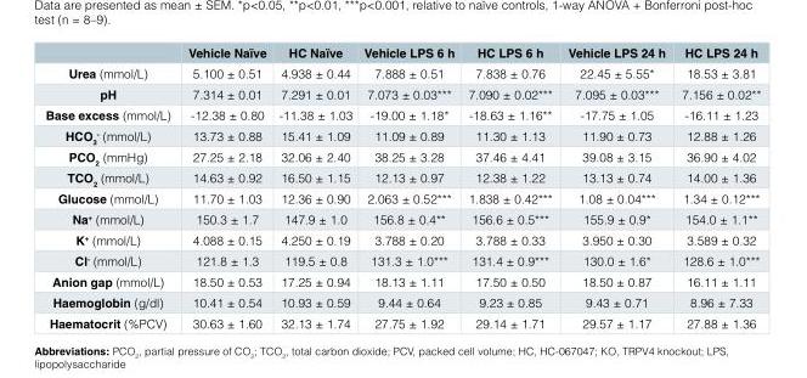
<table><thead><tr><td></td><td>Vehicle Naïve</td><td>HC Naïve</td><td>Vehicle LPS 6 h</td><td>HC LPS 6 h</td><td>Vehicle LPS 24 h</td><td>HC LPS 24 h</td></tr></thead><tbody><tr><td>Urea (mmol/L)</td><td>5.100 ± 0.51</td><td>4.938 ± 0.44</td><td>7.888 ± 0.51</td><td>7.838 ± 0.76</td><td>22.45 ± 5.55*</td><td>18.53 ± 3.81</td></tr><tr><td>pH</td><td>7.314 ± 0.01</td><td>7.291 ± 0.01</td><td>7.073 ± 0.03***</td><td>7.090 ± 0.02***</td><td>7.095 ± 0.03***</td><td>7.156 ± 0.02**</td></tr><tr><td>Base excess (mmol/L)</td><td>-12.38 ± 0.80</td><td>-11.38 ± 1.03</td><td>-19.00 ± 1.18*</td><td>-18.63 ± 1.16**</td><td>-17.75 ± 1.05</td><td>-16.11 ± 1.23</td></tr><tr><td>HCO<sub>3</sub> <sup>-</sup> (mmol/L)</td><td>13.73 ± 0.88</td><td>15.41 ± 1.09</td><td>11.09 ± 0.89</td><td>11.30 ± 1.13</td><td>11.90 ± 0.73</td><td>12.88 ± 1.26</td></tr><tr><td>PCO<sub>2</sub> (mmHg)</td><td>27.25 ± 2.18</td><td>32.06 ± 2.40</td><td>38.25 ± 3.28</td><td>37.46 ± 4.41</td><td>39.08 ± 3.15</td><td>36.90 ± 4.02</td></tr><tr><td>TCO<sub>2</sub> (mmol/L)</td><td>14.63 ± 0.92</td><td>16.50 ± 1.15</td><td>12.13 ± 0.97</td><td>12.38 ± 1.22</td><td>13.13 ± 0.74</td><td>14.00 ± 1.36</td></tr><tr><td>Glucose (mmol/L)</td><td>11.70 ± 1.03</td><td>12.36 ± 0.90</td><td>2.063 ± 0.52***</td><td>1.838 ± 0.42***</td><td>1.08 ± 0.04***</td><td>1.34 ± 0.12***</td></tr><tr><td>Na<sup>+</sup> (mmol/L)</td><td>150.3 ± 1.7</td><td>147.9 ± 1.0</td><td>156.8 ± 0.4**</td><td>156.6 ± 0.5***</td><td>155.9 ± 0.9*</td><td>154.0 ± 1.1**</td></tr><tr><td>K<sup>+</sup> (mmol/L)</td><td>4.088 ± 0.15</td><td>4.250 ± 0.19</td><td>3.788 ± 0.20</td><td>3.788 ± 0.33</td><td>3.950 ± 0.30</td><td>3.589 ± 0.32</td></tr><tr><td>Cl<sup>-</sup> (mmol/L)</td><td>121.8 ± 1.3</td><td>119.5 ± 0.8</td><td>131.3 ± 1.0***</td><td>131.4 ± 0.9***</td><td>130.0 ± 1.6*</td><td>128.6 ± 1.0***</td></tr><tr><td>Anion gap (mmol/L)</td><td>18.50 ± 0.53</td><td>17.25 ± 0.94</td><td>18.13 ± 1.11</td><td>17.50 ± 0.50</td><td>18.50 ± 0.87</td><td>16.11 ± 1.11</td></tr><tr><td>Haemoglobin (g/dl)</td><td>10.41 ± 0.54</td><td>10.93 ± 0.59</td><td>9.44 ± 0.64</td><td>9.23 ± 0.85</td><td>9.43 ± 0.71</td><td>8.96 ± 7.33</td></tr><tr><td>Haematocrit (%PCV)</td><td>30.63 ± 1.60</td><td>32.13 ± 1.74</td><td>27.75 ± 1.92</td><td>29.14 ± 1.71</td><td>29.57 ± 1.17</td><td>27.88 ± 1.36</td></tr></tbody></table>